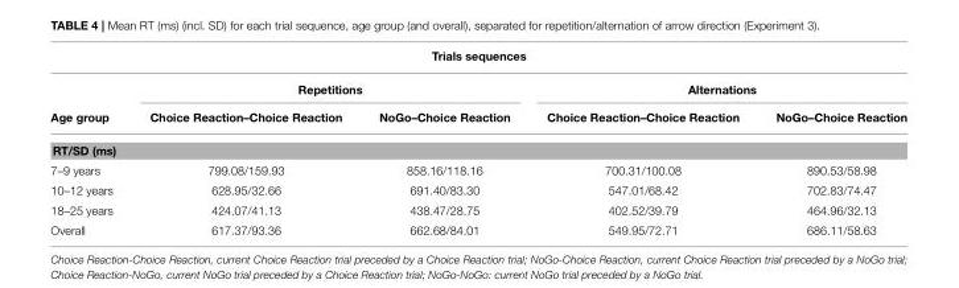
<table><thead><tr><td colspan="5">Trials sequences</td></tr><tr><td rowspan="2">Age group</td><td colspan="2">Repetitions</td><td colspan="2">Alternations</td></tr><tr><td>Choice Reaction–Choice Reaction</td><td>NoGo–Choice Reaction</td><td>Choice Reaction–Choice Reaction</td><td>NoGo–Choice Reaction</td></tr></thead><tbody><tr><td colspan="5">RT/SD (ms)</td></tr><tr><td>7–9 years</td><td>799.08/159.93</td><td>858.16/118.16</td><td>700.31/100.08</td><td>890.53/58.98</td></tr><tr><td>10–12 years</td><td>628.95/32.66</td><td>691.40/83.30</td><td>547.01/68.42</td><td>702.83/74.47</td></tr><tr><td>18–25 years</td><td>424.07/41.13</td><td>438.47/28.75</td><td>402.52/39.79</td><td>464.96/32.13</td></tr><tr><td>Overall</td><td>617.37/93.36</td><td>662.68/84.01</td><td>549.95/72.71</td><td>686.11/58.63</td></tr></tbody></table>